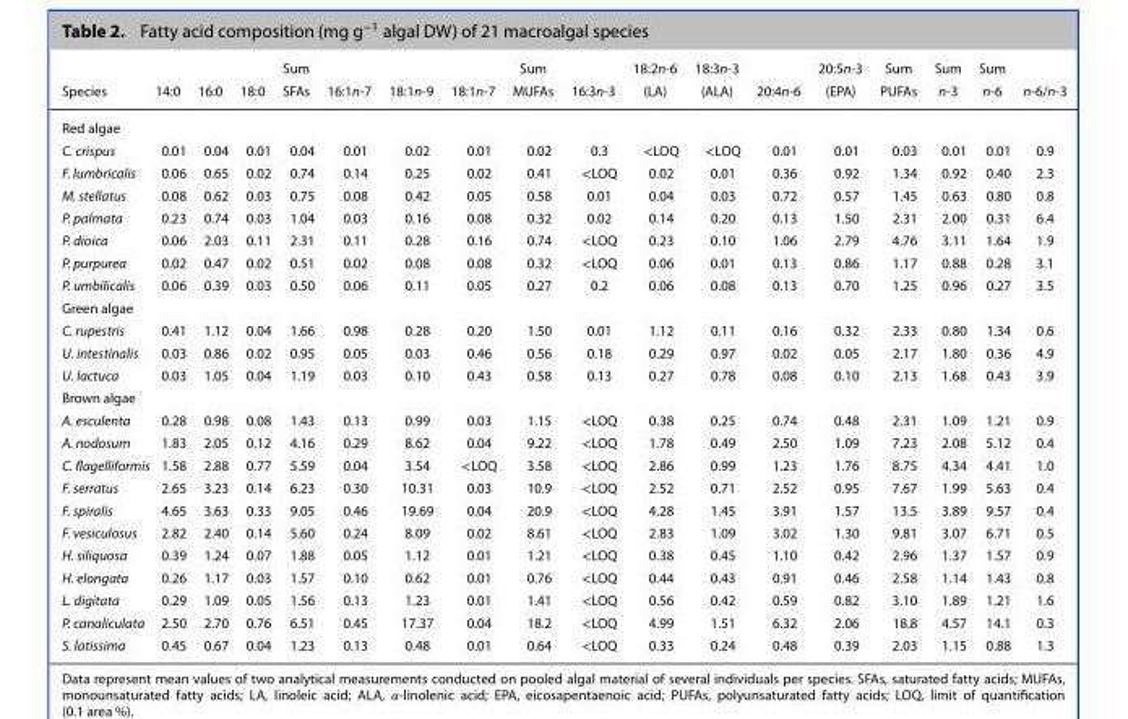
<table><thead><tr><td>Species</td><td>14:0</td><td>16:0</td><td>18:0</td><td>Sum SFAs</td><td>16:1n-7</td><td>18:1n-9</td><td>18:1n-7</td><td>Sum MUFAs</td><td>16:3n-3</td><td>18:2n-6 (LA)</td><td>18:3n-3 (ALA)</td><td>20:4n-6</td><td>20:5n-3 (EPA)</td><td>Sum PUFAs</td><td>Sum n-3</td><td>Sum n-6</td><td>n-6/n-3</td></tr></thead><tbody><tr><td colspan="18">Red algae</td></tr><tr><td>C. crispus</td><td>0.01</td><td>0.04</td><td>0.01</td><td>0.04</td><td>0.01</td><td>0.02</td><td>0.01</td><td>0.02</td><td>0.3</td><td>&lt;LOQ</td><td>&lt;LOQ</td><td>0.01</td><td>0.01</td><td>0.03</td><td>0.01</td><td>0.01</td><td>0.9</td></tr><tr><td>F. lumbricalis</td><td>0.06</td><td>0.65</td><td>0.02</td><td>0.74</td><td>0.14</td><td>0.25</td><td>0.02</td><td>0.41</td><td>&lt;LOQ</td><td>0.02</td><td>0.01</td><td>0.36</td><td>0.92</td><td>1.34</td><td>0.92</td><td>0.40</td><td>2.3</td></tr><tr><td>M. stellatus</td><td>0.08</td><td>0.62</td><td>0.03</td><td>0.75</td><td>0.08</td><td>0.42</td><td>0.05</td><td>0.58</td><td>0.01</td><td>0.04</td><td>0.03</td><td>0.72</td><td>0.57</td><td>1.45</td><td>0.63</td><td>0.80</td><td>0.8</td></tr><tr><td>P. palmata</td><td>0.23</td><td>0.74</td><td>0.03</td><td>1.04</td><td>0.03</td><td>0.16</td><td>0.08</td><td>0.32</td><td>0.02</td><td>0.14</td><td>0.20</td><td>0.13</td><td>1.50</td><td>2.31</td><td>2.00</td><td>0.31</td><td>6.4</td></tr><tr><td>P. dioica</td><td>0.06</td><td>2.03</td><td>0.11</td><td>2.31</td><td>0.11</td><td>0.28</td><td>0.16</td><td>0.74</td><td>&lt;LOQ</td><td>0.23</td><td>0.10</td><td>1.06</td><td>2.79</td><td>4.76</td><td>3.11</td><td>1.64</td><td>1.9</td></tr><tr><td>P. purpurea</td><td>0.02</td><td>0.47</td><td>0.02</td><td>0.51</td><td>0.02</td><td>0.08</td><td>0.08</td><td>0.32</td><td>&lt;LOQ</td><td>0.06</td><td>0.01</td><td>0.13</td><td>0.86</td><td>1.17</td><td>0.88</td><td>0.28</td><td>3.1</td></tr><tr><td>P. umbilicalis</td><td>0.06</td><td>0.39</td><td>0.03</td><td>0.50</td><td>0.06</td><td>0.11</td><td>0.05</td><td>0.27</td><td>0.2</td><td>0.06</td><td>0.08</td><td>0.13</td><td>0.70</td><td>1.25</td><td>0.96</td><td>0.27</td><td>3.5</td></tr><tr><td colspan="18">Green algae</td></tr><tr><td>C. rupestris</td><td>0.41</td><td>1.12</td><td>0.04</td><td>1.66</td><td>0.98</td><td>0.28</td><td>0.20</td><td>1.50</td><td>0.01</td><td>1.12</td><td>0.11</td><td>0.16</td><td>0.32</td><td>2.33</td><td>0.80</td><td>1.34</td><td>0.6</td></tr><tr><td>U. intestinalis</td><td>0.03</td><td>0.86</td><td>0.02</td><td>0.95</td><td>0.05</td><td>0.03</td><td>0.46</td><td>0.56</td><td>0.18</td><td>0.29</td><td>0.97</td><td>0.02</td><td>0.05</td><td>2.17</td><td>1.80</td><td>0.36</td><td>4.9</td></tr><tr><td>U. lactuca</td><td>0.03</td><td>1.05</td><td>0.04</td><td>1.19</td><td>0.03</td><td>0.10</td><td>0.43</td><td>0.58</td><td>0.13</td><td>0.27</td><td>0.78</td><td>0.08</td><td>0.10</td><td>2.13</td><td>1.68</td><td>0.43</td><td>3.9</td></tr><tr><td colspan="18">Brown algae</td></tr><tr><td>A. esculenta</td><td>0.28</td><td>0.98</td><td>0.08</td><td>1.43</td><td>0.13</td><td>0.99</td><td>0.03</td><td>1.15</td><td>&lt;LOQ</td><td>0.38</td><td>0.25</td><td>0.74</td><td>0.48</td><td>2.31</td><td>1.09</td><td>1.21</td><td>0.9</td></tr><tr><td>A. nodosum</td><td>1.83</td><td>2.05</td><td>0.12</td><td>4.16</td><td>0.29</td><td>8.62</td><td>0.04</td><td>9.22</td><td>&lt;LOQ</td><td>1.78</td><td>0.49</td><td>2.50</td><td>1.09</td><td>7.23</td><td>2.08</td><td>5.12</td><td>0.4</td></tr><tr><td>C. flagelliformis</td><td>1.58</td><td>2.88</td><td>0.77</td><td>5.59</td><td>0.04</td><td>3.54</td><td>&lt;LOQ</td><td>3.58</td><td>&lt;LOQ</td><td>2.86</td><td>0.99</td><td>1.23</td><td>1.76</td><td>8.75</td><td>4.34</td><td>4.41</td><td>1.0</td></tr><tr><td>F. serratus</td><td>2.65</td><td>3.23</td><td>0.14</td><td>6.23</td><td>0.30</td><td>10.31</td><td>0.03</td><td>10.9</td><td>&lt;LOQ</td><td>2.52</td><td>0.71</td><td>2.52</td><td>0.95</td><td>7.67</td><td>1.99</td><td>5.63</td><td>0.4</td></tr><tr><td>F. spiralis</td><td>4.65</td><td>3.63</td><td>0.33</td><td>9.05</td><td>0.46</td><td>19.69</td><td>0.04</td><td>20.9</td><td>&lt;LOQ</td><td>4.28</td><td>1.45</td><td>3.91</td><td>1.57</td><td>13.5</td><td>3.89</td><td>9.57</td><td>0.4</td></tr><tr><td>F. vesiculosus</td><td>2.82</td><td>2.40</td><td>0.14</td><td>5.60</td><td>0.24</td><td>8.09</td><td>0.02</td><td>8.61</td><td>&lt;LOQ</td><td>2.83</td><td>1.09</td><td>3.02</td><td>1.30</td><td>9.81</td><td>3.07</td><td>6.71</td><td>0.5</td></tr><tr><td>H. siliquosa</td><td>0.39</td><td>1.24</td><td>0.07</td><td>1.88</td><td>0.05</td><td>1.12</td><td>0.01</td><td>1.21</td><td>&lt;LOQ</td><td>0.38</td><td>0.45</td><td>1.10</td><td>0.42</td><td>2.96</td><td>1.37</td><td>1.57</td><td>0.9</td></tr><tr><td>H. elongata</td><td>0.26</td><td>1.17</td><td>0.03</td><td>1.57</td><td>0.10</td><td>0.62</td><td>0.01</td><td>0.76</td><td>&lt;LOQ</td><td>0.44</td><td>0.43</td><td>0.91</td><td>0.46</td><td>2.58</td><td>1.14</td><td>1.43</td><td>0.8</td></tr><tr><td>L. digitata</td><td>0.29</td><td>1.09</td><td>0.05</td><td>1.56</td><td>0.13</td><td>1.23</td><td>0.01</td><td>1.41</td><td>&lt;LOQ</td><td>0.56</td><td>0.42</td><td>0.59</td><td>0.82</td><td>3.10</td><td>1.89</td><td>1.21</td><td>1.6</td></tr><tr><td>P. canaliculata</td><td>2.50</td><td>2.70</td><td>0.76</td><td>6.51</td><td>0.45</td><td>17.37</td><td>0.04</td><td>18.2</td><td>&lt;LOQ</td><td>4.99</td><td>1.51</td><td>6.32</td><td>2.06</td><td>18.8</td><td>4.57</td><td>14.1</td><td>0.3</td></tr><tr><td>S. latissima</td><td>0.45</td><td>0.67</td><td>0.04</td><td>1.23</td><td>0.13</td><td>0.48</td><td>0.01</td><td>0.64</td><td>&lt;LOQ</td><td>0.33</td><td>0.24</td><td>0.48</td><td>0.39</td><td>2.03</td><td>1.15</td><td>0.88</td><td>1.3</td></tr></tbody></table>